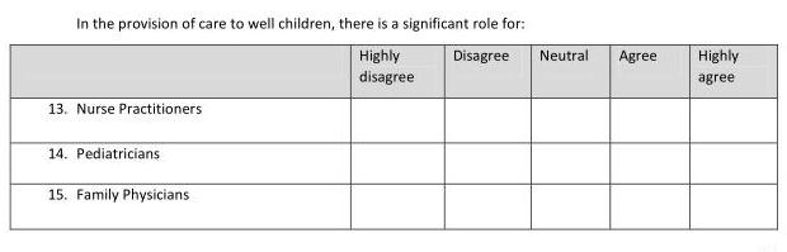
<table><thead><tr><td></td><td>Highly disagree</td><td>Disagree</td><td>Neutral</td><td>Agree</td><td>Highly agree</td></tr></thead><tbody><tr><td colspan="6">13. Nurse Practitioners</td></tr><tr><td colspan="6">14. Pediatricians</td></tr><tr><td>15. Family Physicians</td><td></td><td></td><td></td><td></td><td></td></tr></tbody></table>